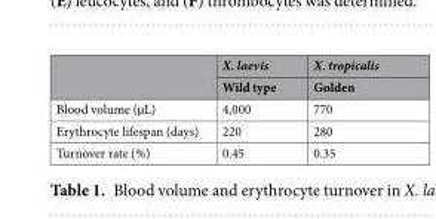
<table><thead><tr><td rowspan="2"></td><td rowspan="2">X. laevis Wild type</td><td rowspan="2">X. tropicalis Golden</td></tr><tr></tr></thead><tbody><tr><td>Blood volume (µL)</td><td>4,000</td><td>770</td></tr><tr><td>Erythrocyte lifespan (days)</td><td>220</td><td>280</td></tr><tr><td>Turnover rate (%)</td><td>0.45</td><td>0.35</td></tr></tbody></table>